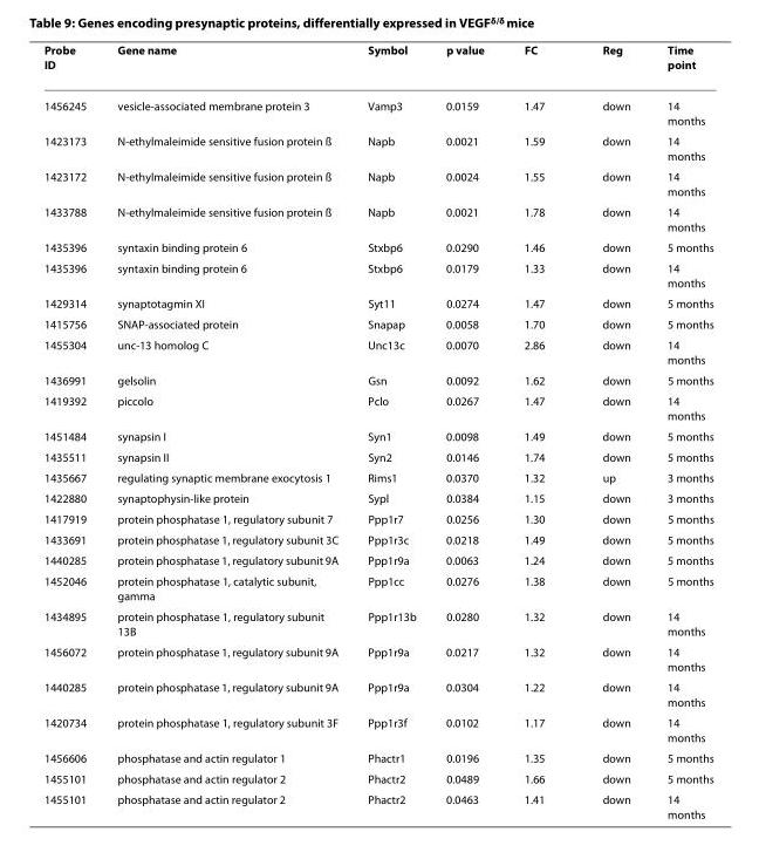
<table><thead><tr><td>Probe ID</td><td>Gene name</td><td>Symbol</td><td>p value</td><td>FC</td><td>Reg</td><td>Time point</td></tr></thead><tbody><tr><td>1456245</td><td>vesicle-associated membrane protein 3</td><td>Vamp3</td><td>0.0159</td><td>1.47</td><td>down</td><td>14 months</td></tr><tr><td>1423173</td><td>N-ethylmaleimide sensitive fusion protein ß</td><td>Napb</td><td>0.0021</td><td>1.59</td><td>down</td><td>14 months</td></tr><tr><td>1423172</td><td>N-ethylmaleimide sensitive fusion protein ß</td><td>Napb</td><td>0.0024</td><td>1.55</td><td>down</td><td>14 months</td></tr><tr><td>1433788</td><td>N-ethylmaleimide sensitive fusion protein ß</td><td>Napb</td><td>0.0021</td><td>1.78</td><td>down</td><td>14 months</td></tr><tr><td>1435396</td><td>syntaxin binding protein 6</td><td>Stxbp6</td><td>0.0290</td><td>1.46</td><td>down</td><td>5 months</td></tr><tr><td>1435396</td><td>syntaxin binding protein 6</td><td>Stxbp6</td><td>0.0179</td><td>1.33</td><td>down</td><td>14 months</td></tr><tr><td>1429314</td><td>synaptotagmin XI</td><td>Syt11</td><td>0.0274</td><td>1.47</td><td>down</td><td>5 months</td></tr><tr><td>1415756</td><td>SNAP-associated protein</td><td>Snapap</td><td>0.0058</td><td>1.70</td><td>down</td><td>5 months</td></tr><tr><td>1455304</td><td>unc-13 homolog C</td><td>Unc13c</td><td>0.0070</td><td>2.86</td><td>down</td><td>14 months</td></tr><tr><td>1436991</td><td>gelsolin</td><td>Gsn</td><td>0.0092</td><td>1.62</td><td>down</td><td>5 months</td></tr><tr><td>1419392</td><td>piccolo</td><td>Pclo</td><td>0.0267</td><td>1.47</td><td>down</td><td>14 months</td></tr><tr><td>1451484</td><td>synapsin I</td><td>Syn1</td><td>0.0098</td><td>1.49</td><td>down</td><td>5 months</td></tr><tr><td>1435511</td><td>synapsin II</td><td>Syn2</td><td>0.0146</td><td>1.74</td><td>down</td><td>5 months</td></tr><tr><td>1435667</td><td>regulating synaptic membrane exocytosis 1</td><td>Rims1</td><td>0.0370</td><td>1.32</td><td>up</td><td>3 months</td></tr><tr><td>1422880</td><td>synaptophysin-like protein</td><td>Sypl</td><td>0.0384</td><td>1.15</td><td>down</td><td>3 months</td></tr><tr><td>1417919</td><td>protein phosphatase 1, regulatory subunit 7</td><td>Ppp1r7</td><td>0.0256</td><td>1.30</td><td>down</td><td>5 months</td></tr><tr><td>1433691</td><td>protein phosphatase 1, regulatory subunit 3C</td><td>Ppp1r3c</td><td>0.0218</td><td>1.49</td><td>down</td><td>5 months</td></tr><tr><td>1440285</td><td>protein phosphatase 1, regulatory subunit 9A</td><td>Ppp1r9a</td><td>0.0063</td><td>1.24</td><td>down</td><td>5 months</td></tr><tr><td>1452046</td><td>protein phosphatase 1, catalytic subunit, gamma</td><td>Ppp1cc</td><td>0.0276</td><td>1.38</td><td>down</td><td>5 months</td></tr><tr><td>1434895</td><td>protein phosphatase 1, regulatory subunit 13B</td><td>Ppp1r13b</td><td>0.0280</td><td>1.32</td><td>down</td><td>14 months</td></tr><tr><td>1456072</td><td>protein phosphatase 1, regulatory subunit 9A</td><td>Ppp1r9a</td><td>0.0217</td><td>1.32</td><td>down</td><td>14 months</td></tr><tr><td>1440285</td><td>protein phosphatase 1, regulatory subunit 9A</td><td>Ppp1r9a</td><td>0.0304</td><td>1.22</td><td>down</td><td>14 months</td></tr><tr><td>1420734</td><td>protein phosphatase 1, regulatory subunit 3F</td><td>Ppp1r3f</td><td>0.0102</td><td>1.17</td><td>down</td><td>14 months</td></tr><tr><td>1456606</td><td>phosphatase and actin regulator 1</td><td>Phactr1</td><td>0.0196</td><td>1.35</td><td>down</td><td>5 months</td></tr><tr><td>1455101</td><td>phosphatase and actin regulator 2</td><td>Phactr2</td><td>0.0489</td><td>1.66</td><td>down</td><td>5 months</td></tr><tr><td>1455101</td><td>phosphatase and actin regulator 2</td><td>Phactr2</td><td>0.0463</td><td>1.41</td><td>down</td><td>14 months</td></tr></tbody></table>